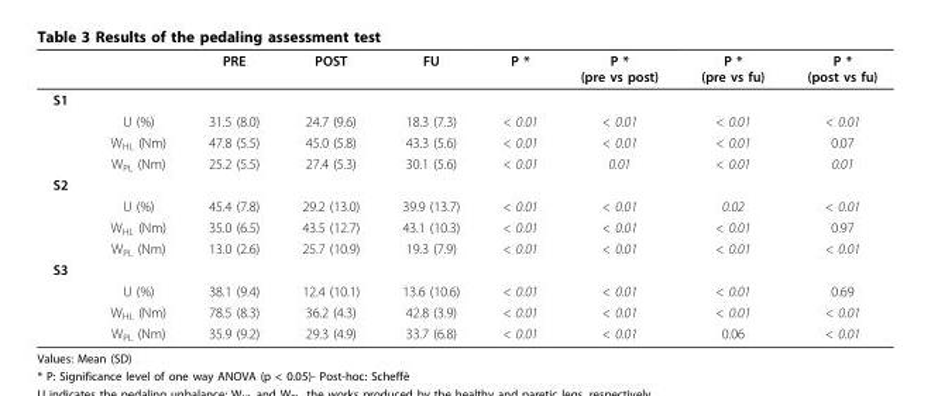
<table><thead><tr><td></td><td></td><td>PRE</td><td>POST</td><td>FU</td><td>P *</td><td>P * (pre vs post)</td><td>P * (pre vs fu)</td><td>P * (post vs fu)</td></tr></thead><tbody><tr><td colspan="9">S1</td></tr><tr><td></td><td>U (%)</td><td>31.5 (8.0)</td><td>24.7 (9.6)</td><td>18.3 (7.3)</td><td>&lt; 0.01</td><td>&lt; 0.01</td><td>&lt; 0.01</td><td>&lt; 0.01</td></tr><tr><td></td><td>W<sub>HL</sub> (Nm)</td><td>47.8 (5.5)</td><td>45.0 (5.8)</td><td>43.3 (5.6)</td><td>&lt; 0.01</td><td>&lt; 0.01</td><td>&lt; 0.01</td><td>0.07</td></tr><tr><td></td><td>W<sub>PL</sub> (Nm)</td><td>25.2 (5.5)</td><td>27.4 (5.3)</td><td>30.1 (5.6)</td><td>&lt; 0.01</td><td>0.01</td><td>&lt; 0.01</td><td>0.01</td></tr><tr><td colspan="9">S2</td></tr><tr><td></td><td>U (%)</td><td>45.4 (7.8)</td><td>29.2 (13.0)</td><td>39.9 (13.7)</td><td>&lt; 0.01</td><td>&lt; 0.01</td><td>0.02</td><td>&lt; 0.01</td></tr><tr><td></td><td>W<sub>HL</sub> (Nm)</td><td>35.0 (6.5)</td><td>43.5 (12.7)</td><td>43.1 (10.3)</td><td>&lt; 0.01</td><td>&lt; 0.01</td><td>&lt; 0.01</td><td>0.97</td></tr><tr><td></td><td>W<sub>PL</sub> (Nm)</td><td>13.0 (2.6)</td><td>25.7 (10.9)</td><td>19.3 (7.9)</td><td>&lt; 0.01</td><td>&lt; 0.01</td><td>&lt; 0.01</td><td>&lt; 0.01</td></tr><tr><td colspan="9">S3</td></tr><tr><td></td><td>U (%)</td><td>38.1 (9.4)</td><td>12.4 (10.1)</td><td>13.6 (10.6)</td><td>&lt; 0.01</td><td>&lt; 0.01</td><td>&lt; 0.01</td><td>0.69</td></tr><tr><td></td><td>W<sub>HL</sub> (Nm)</td><td>78.5 (8.3)</td><td>36.2 (4.3)</td><td>42.8 (3.9)</td><td>&lt; 0.01</td><td>&lt; 0.01</td><td>&lt; 0.01</td><td>&lt; 0.01</td></tr><tr><td></td><td>W<sub>PL</sub> (Nm)</td><td>35.9 (9.2)</td><td>29.3 (4.9)</td><td>33.7 (6.8)</td><td>&lt; 0.01</td><td>&lt; 0.01</td><td>0.06</td><td>&lt; 0.01</td></tr></tbody></table>